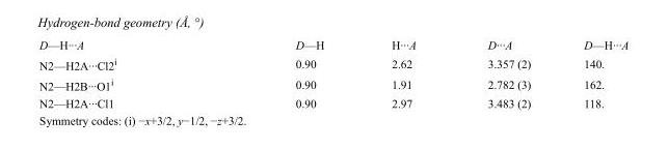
<table><tbody><tr><td>D—H···A</td><td>D—H</td><td>H···A</td><td>D···A</td><td>D—H···A</td></tr><tr><td>N2—H2A···Cl2<sup>i</sup></td><td>0.90</td><td>2.62</td><td>3.357 (2)</td><td>140.</td></tr><tr><td>N2—H2B···O1<sup>i</sup></td><td>0.90</td><td>1.91</td><td>2.782 (3)</td><td>162.</td></tr><tr><td>N2—H2A···Cl1</td><td>0.90</td><td>2.97</td><td>3.483 (2)</td><td>118.</td></tr></tbody></table>